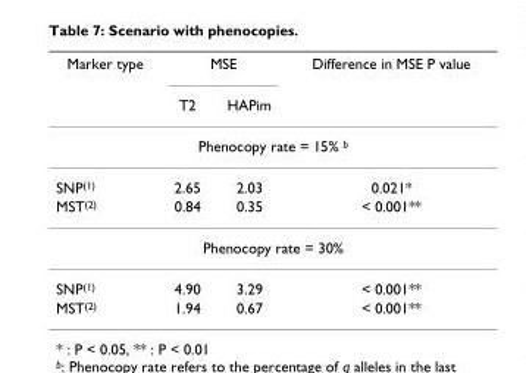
<table><thead><tr><td rowspan="2">Marker type</td><td colspan="2">MSE</td><td rowspan="2">Difference in MSE P value</td></tr><tr><td>T2</td><td>HAPim</td></tr></thead><tbody><tr><td colspan="4">Phenocopy rate = 15% b</td></tr><tr><td>SNP(1)</td><td>2.65</td><td>2.03</td><td>0.021*</td></tr><tr><td>MST(2)</td><td>0.84</td><td>0.35</td><td>&lt; 0.001**</td></tr><tr><td colspan="4">Phenocopy rate = 30%</td></tr><tr><td>SNP(1)</td><td>4.90</td><td>3.29</td><td>&lt; 0.001**</td></tr><tr><td>MST(2)</td><td>1.94</td><td>0.67</td><td>&lt; 0.001**</td></tr></tbody></table>